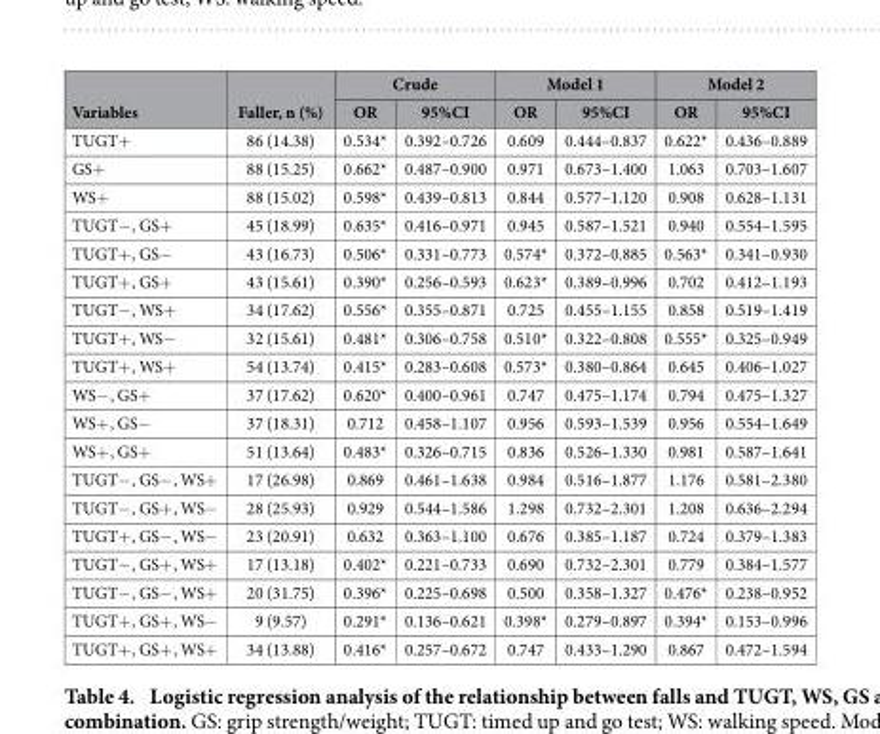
<table><thead><tr><td rowspan="2">Variables</td><td rowspan="2">Faller, n (%)</td><td colspan="2">Crude</td><td colspan="2">Model 1</td><td colspan="2">Model 2</td></tr><tr><td>OR</td><td>95%CI</td><td>OR</td><td>95%CI</td><td>OR</td><td>95%CI</td></tr></thead><tbody><tr><td>TUGT+</td><td>86 (14.38)</td><td>0.534*</td><td>0.392–0.726</td><td>0.609</td><td>0.444–0.837</td><td>0.622*</td><td>0.436–0.889</td></tr><tr><td>GS+</td><td>88 (15.25)</td><td>0.662*</td><td>0.487–0.900</td><td>0.971</td><td>0.673–1.400</td><td>1.063</td><td>0.703–1.607</td></tr><tr><td>WS+</td><td>88 (15.02)</td><td>0.598*</td><td>0.439–0.813</td><td>0.844</td><td>0.577–1.120</td><td>0.908</td><td>0.628–1.131</td></tr><tr><td>TUGT− , GS+</td><td>45 (18.99)</td><td>0.635*</td><td>0.416–0.971</td><td>0.945</td><td>0.587–1.521</td><td>0.940</td><td>0.554–1.595</td></tr><tr><td>TUGT+ , GS−</td><td>43 (16.73)</td><td>0.506*</td><td>0.331–0.773</td><td>0.574*</td><td>0.372–0.885</td><td>0.563*</td><td>0.341–0.930</td></tr><tr><td>TUGT+ , GS+</td><td>43 (15.61)</td><td>0.390*</td><td>0.256–0.593</td><td>0.623*</td><td>0.389–0.996</td><td>0.702</td><td>0.412–1.193</td></tr><tr><td>TUGT− , WS+</td><td>34 (17.62)</td><td>0.556*</td><td>0.355–0.871</td><td>0.725</td><td>0.455–1.155</td><td>0.858</td><td>0.519–1.419</td></tr><tr><td>TUGT+ , WS−</td><td>32 (15.61)</td><td>0.481*</td><td>0.306–0.758</td><td>0.510*</td><td>0.322–0.808</td><td>0.555*</td><td>0.325–0.949</td></tr><tr><td>TUGT+ , WS+</td><td>54 (13.74)</td><td>0.415*</td><td>0.283–0.608</td><td>0.573*</td><td>0.380–0.864</td><td>0.645</td><td>0.406–1.027</td></tr><tr><td>WS− , GS+</td><td>37 (17.62)</td><td>0.620*</td><td>0.400–0.961</td><td>0.747</td><td>0.475–1.174</td><td>0.794</td><td>0.475–1.327</td></tr><tr><td>WS+ , GS−</td><td>37 (18.31)</td><td>0.712</td><td>0.458–1.107</td><td>0.956</td><td>0.593–1.539</td><td>0.956</td><td>0.554–1.649</td></tr><tr><td>WS+ , GS+</td><td>51 (13.64)</td><td>0.483*</td><td>0.326–0.715</td><td>0.836</td><td>0.526–1.330</td><td>0.981</td><td>0.587–1.641</td></tr><tr><td>TUGT− , GS− , WS+</td><td>17 (26.98)</td><td>0.869</td><td>0.461–1.638</td><td>0.984</td><td>0.516–1.877</td><td>1.176</td><td>0.581–2.380</td></tr><tr><td>TUGT− , GS+ , WS−</td><td>28 (25.93)</td><td>0.929</td><td>0.544–1.586</td><td>1.298</td><td>0.732–2.301</td><td>1.208</td><td>0.636–2.294</td></tr><tr><td>TUGT+ , GS− , WS−</td><td>23 (20.91)</td><td>0.632</td><td>0.363–1.100</td><td>0.676</td><td>0.385–1.187</td><td>0.724</td><td>0.379–1.383</td></tr><tr><td>TUGT− , GS+ , WS+</td><td>17 (13.18)</td><td>0.402*</td><td>0.221–0.733</td><td>0.690</td><td>0.732–2.301</td><td>0.779</td><td>0.384–1.577</td></tr><tr><td>TUGT− , GS− , WS+</td><td>20 (31.75)</td><td>0.396*</td><td>0.225–0.698</td><td>0.500</td><td>0.358–1.327</td><td>0.476*</td><td>0.238–0.952</td></tr><tr><td>TUGT+ , GS+ , WS−</td><td>9 (9.57)</td><td>0.291*</td><td>0.136–0.621</td><td>0.398*</td><td>0.279–0.897</td><td>0.394*</td><td>0.153–0.996</td></tr><tr><td>TUGT+ , GS+ , WS+</td><td>34 (13.88)</td><td>0.416*</td><td>0.257–0.672</td><td>0.747</td><td>0.433–1.290</td><td>0.867</td><td>0.472–1.594</td></tr></tbody></table>